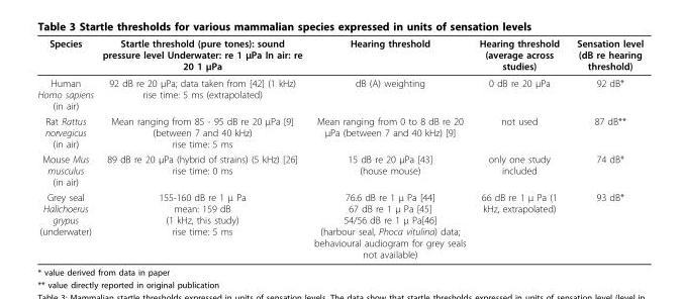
<table><thead><tr><td>Species</td><td>Startle threshold (pure tones): sound pressure level Underwater: re 1 μPa In air: re 20 1 μPa</td><td>Hearing threshold</td><td>Hearing threshold (average across studies)</td><td>Sensation level (dB re hearing threshold)</td></tr></thead><tbody><tr><td>Human Homo sapiens (in air)</td><td>92 dB re 20 μPa; data taken from [42] (1 kHz) rise time: 5 ms (extrapolated)</td><td>dB (A) weighting</td><td>0 dB re 20 μPa</td><td>92 dB*</td></tr><tr><td>Rat Rattus norvegicus (in air)</td><td>Mean ranging from 85 - 95 dB re 20 μPa [9] (between 7 and 40 kHz) rise time: 5 ms</td><td>Mean ranging from 0 to 8 dB re 20 μPa (between 7 and 40 kHz) [9]</td><td>not used</td><td>87 dB**</td></tr><tr><td>Mouse Mus musculus (in air)</td><td>89 dB re 20 μPa (hybrid of strains) (5 kHz) [26] rise time: 0 ms</td><td>15 dB re 20 μPa [43] (house mouse)</td><td>only one study included</td><td>74 dB*</td></tr><tr><td>Grey seal Halichoerus grypus (underwater)</td><td>155-160 dB re 1 μ Pa mean: 159 dB (1 kHz, this study) rise time: 5 ms</td><td>76.6 dB re 1 μ Pa [44] 67 dB re 1 μ Pa [45] 54/56 dB re 1 μ Pa[46] (harbour seal, Phoca vitulina) data; behavioural audiogram for grey seals not available)</td><td>66 dB re 1 μ Pa (1 kHz, extrapolated)</td><td>93 dB*</td></tr></tbody></table>